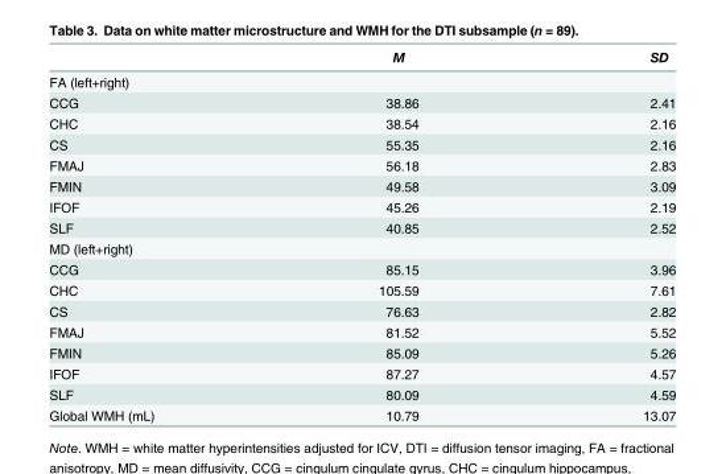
<table><thead><tr><td></td><td>M</td><td>SD</td></tr></thead><tbody><tr><td colspan="3">FA (left+right)</td></tr><tr><td>CCG</td><td>38.86</td><td>2.41</td></tr><tr><td>CHC</td><td>38.54</td><td>2.16</td></tr><tr><td>CS</td><td>55.35</td><td>2.16</td></tr><tr><td>FMAJ</td><td>56.18</td><td>2.83</td></tr><tr><td>FMIN</td><td>49.58</td><td>3.09</td></tr><tr><td>IFOF</td><td>45.26</td><td>2.19</td></tr><tr><td>SLF</td><td>40.85</td><td>2.52</td></tr><tr><td colspan="3">MD (left+right)</td></tr><tr><td>CCG</td><td>85.15</td><td>3.96</td></tr><tr><td>CHC</td><td>105.59</td><td>7.61</td></tr><tr><td>CS</td><td>76.63</td><td>2.82</td></tr><tr><td>FMAJ</td><td>81.52</td><td>5.52</td></tr><tr><td>FMIN</td><td>85.09</td><td>5.26</td></tr><tr><td>IFOF</td><td>87.27</td><td>4.57</td></tr><tr><td>SLF</td><td>80.09</td><td>4.59</td></tr><tr><td>Global WMH (mL)</td><td>10.79</td><td>13.07</td></tr></tbody></table>